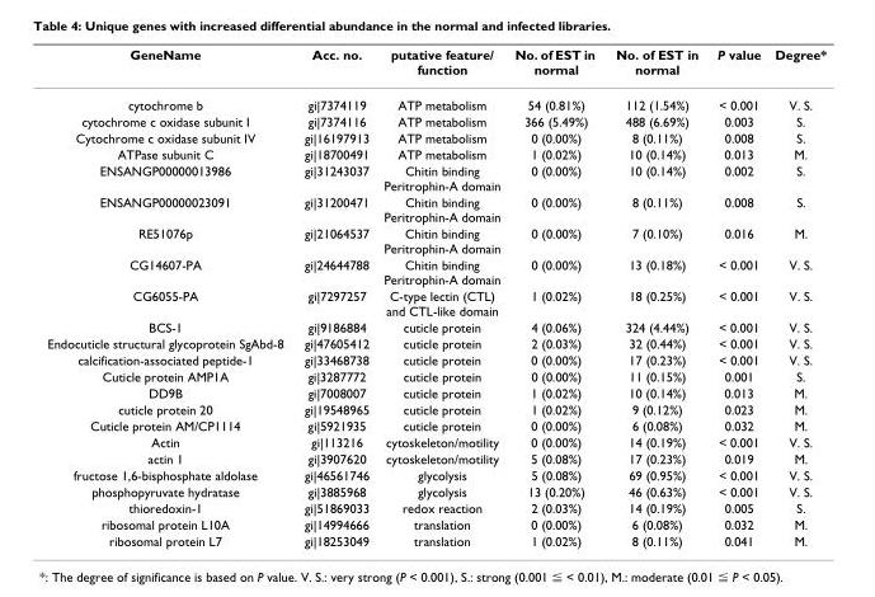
<table><thead><tr><td>GeneName</td><td>Acc. no.</td><td>putative feature/ function</td><td>No. of EST in normal</td><td>No. of EST in normal</td><td>P value</td><td>Degree*</td></tr></thead><tbody><tr><td>cytochrome b</td><td>gi|7374119</td><td>ATP metabolism</td><td>54 (0.81%)</td><td>112 (1.54%)</td><td>&lt; 0.001</td><td>V. S.</td></tr><tr><td>cytochrome c oxidase subunit I</td><td>gi|7374116</td><td>ATP metabolism</td><td>366 (5.49%)</td><td>488 (6.69%)</td><td>0.003</td><td>S.</td></tr><tr><td>Cytochrome c oxidase subunit IV</td><td>gi|16197913</td><td>ATP metabolism</td><td>0 (0.00%)</td><td>8 (0.11%)</td><td>0.008</td><td>S.</td></tr><tr><td>ATPase subunit C</td><td>gi|18700491</td><td>ATP metabolism</td><td>1 (0.02%)</td><td>10 (0.14%)</td><td>0.013</td><td>M.</td></tr><tr><td>ENSANGP00000013986</td><td>gi|31243037</td><td>Chitin binding Peritrophin-A domain</td><td>0 (0.00%)</td><td>10 (0.14%)</td><td>0.002</td><td>S.</td></tr><tr><td>ENSANGP00000023091</td><td>gi|31200471</td><td>Chitin binding Peritrophin-A domain</td><td>0 (0.00%)</td><td>8 (0.11%)</td><td>0.008</td><td>S.</td></tr><tr><td>RE51076p</td><td>gi|21064537</td><td>Chitin binding Peritrophin-A domain</td><td>0 (0.00%)</td><td>7 (0.10%)</td><td>0.016</td><td>M.</td></tr><tr><td>CG14607-PA</td><td>gi|24644788</td><td>Chitin binding Peritrophin-A domain</td><td>0 (0.00%)</td><td>13 (0.18%)</td><td>&lt; 0.001</td><td>V. S.</td></tr><tr><td>CG6055-PA</td><td>gi|7297257</td><td>C-type lectin (CTL) and CTL-like domain</td><td>1 (0.02%)</td><td>18 (0.25%)</td><td>&lt; 0.001</td><td>V. S.</td></tr><tr><td>BCS-1</td><td>gi|9186884</td><td>cuticle protein</td><td>4 (0.06%)</td><td>324 (4.44%)</td><td>&lt; 0.001</td><td>V. S.</td></tr><tr><td>Endocuticle structural glycoprotein SgAbd-8</td><td>gi|47605412</td><td>cuticle protein</td><td>2 (0.03%)</td><td>32 (0.44%)</td><td>&lt; 0.001</td><td>V. S.</td></tr><tr><td>calcification-associated peptide-1</td><td>gi|33468738</td><td>cuticle protein</td><td>0 (0.00%)</td><td>17 (0.23%)</td><td>&lt; 0.001</td><td>V. S.</td></tr><tr><td>Cuticle protein AMP1A</td><td>gi|3287772</td><td>cuticle protein</td><td>0 (0.00%)</td><td>11 (0.15%)</td><td>0.001</td><td>S.</td></tr><tr><td>DD9B</td><td>gi|7008007</td><td>cuticle protein</td><td>1 (0.02%)</td><td>10 (0.14%)</td><td>0.013</td><td>M.</td></tr><tr><td>cuticle protein 20</td><td>gi|19548965</td><td>cuticle protein</td><td>1 (0.02%)</td><td>9 (0.12%)</td><td>0.023</td><td>M.</td></tr><tr><td>Cuticle protein AM/CP1114</td><td>gi|5921935</td><td>cuticle protein</td><td>0 (0.00%)</td><td>6 (0.08%)</td><td>0.032</td><td>M.</td></tr><tr><td>Actin</td><td>gi|113216</td><td>cytoskeleton/motility</td><td>0 (0.00%)</td><td>14 (0.19%)</td><td>&lt; 0.001</td><td>V. S.</td></tr><tr><td>actin 1</td><td>gi|3907620</td><td>cytoskeleton/motility</td><td>5 (0.08%)</td><td>17 (0.23%)</td><td>0.019</td><td>M.</td></tr><tr><td>fructose 1,6-bisphosphate aldolase</td><td>gi|46561746</td><td>glycolysis</td><td>5 (0.08%)</td><td>69 (0.95%)</td><td>&lt; 0.001</td><td>V. S.</td></tr><tr><td>phosphopyruvate hydratase</td><td>gi|3885968</td><td>glycolysis</td><td>13 (0.20%)</td><td>46 (0.63%)</td><td>&lt; 0.001</td><td>V. S.</td></tr><tr><td>thioredoxin-1</td><td>gi|51869033</td><td>redox reaction</td><td>2 (0.03%)</td><td>14 (0.19%)</td><td>0.005</td><td>S.</td></tr><tr><td>ribosomal protein L10A</td><td>gi|14994666</td><td>translation</td><td>0 (0.00%)</td><td>6 (0.08%)</td><td>0.032</td><td>M.</td></tr><tr><td>ribosomal protein L7</td><td>gi|18253049</td><td>translation</td><td>1 (0.02%)</td><td>8 (0.11%)</td><td>0.041</td><td>M.</td></tr></tbody></table>